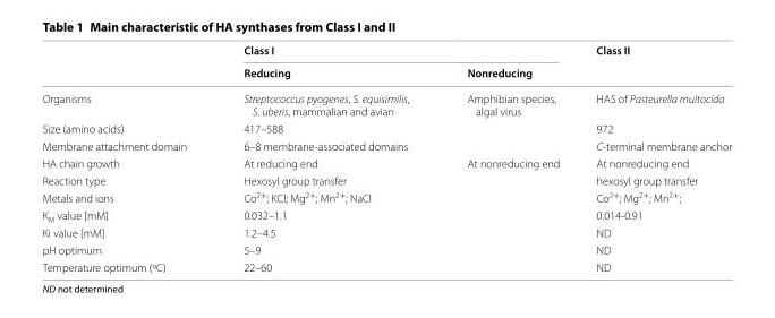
<table><thead><tr><td rowspan="2"></td><td colspan="2">Class I</td><td rowspan="2">Class II</td></tr><tr><td>Reducing</td><td>Nonreducing</td></tr></thead><tbody><tr><td>Organisms</td><td>Streptococcus pyogenes, S. equisimilis, S. uberis, mammalian and avian</td><td>Amphibian species, algal virus</td><td>HAS of Pasteurella multocida</td></tr><tr><td>Size (amino acids)</td><td colspan="2">417–588</td><td>972</td></tr><tr><td>Membrane attachment domain</td><td colspan="2">6–8 membrane-associated domains</td><td>C-terminal membrane anchor</td></tr><tr><td>HA chain growth</td><td>At reducing end</td><td>At nonreducing end</td><td>At nonreducing end</td></tr><tr><td>Reaction type</td><td colspan="2">Hexosyl group transfer</td><td>hexosyl group transfer</td></tr><tr><td>Metals and ions</td><td colspan="2">Co<sup>2+</sup>; KCl; Mg<sup>2+</sup>; Mn<sup>2+</sup>; NaCl</td><td>Co<sup>2+</sup>; Mg<sup>2+</sup>; Mn<sup>2+</sup>;</td></tr><tr><td>K<sub>M</sub> value [mM]</td><td colspan="2">0.032–1.1</td><td>0.014-0.91</td></tr><tr><td>Ki value [mM]</td><td colspan="2">1.2–4.5</td><td>ND</td></tr><tr><td>pH optimum</td><td colspan="2">5–9</td><td>ND</td></tr><tr><td>Temperature optimum (ºC)</td><td colspan="2">22–60</td><td>ND</td></tr></tbody></table>